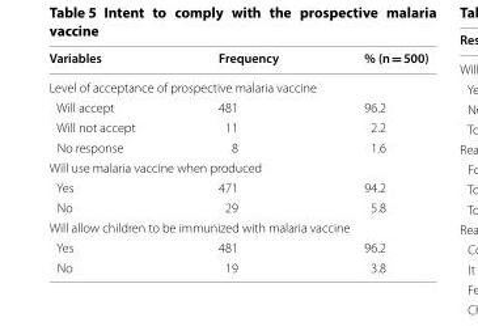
<table><thead><tr><td>Variables</td><td>Frequency</td><td>% (n = 500)</td></tr></thead><tbody><tr><td colspan="3">Level of acceptance of prospective malaria vaccine</td></tr><tr><td>Will accept</td><td>481</td><td>96.2</td></tr><tr><td>Will not accept</td><td>11</td><td>2.2</td></tr><tr><td>No response</td><td>8</td><td>1.6</td></tr><tr><td colspan="3">Will use malaria vaccine when produced</td></tr><tr><td>Yes</td><td>471</td><td>94.2</td></tr><tr><td>No</td><td>29</td><td>5.8</td></tr><tr><td colspan="3">Will allow children to be immunized with malaria vaccine</td></tr><tr><td>Yes</td><td>481</td><td>96.2</td></tr><tr><td>No</td><td>19</td><td>3.8</td></tr></tbody></table>